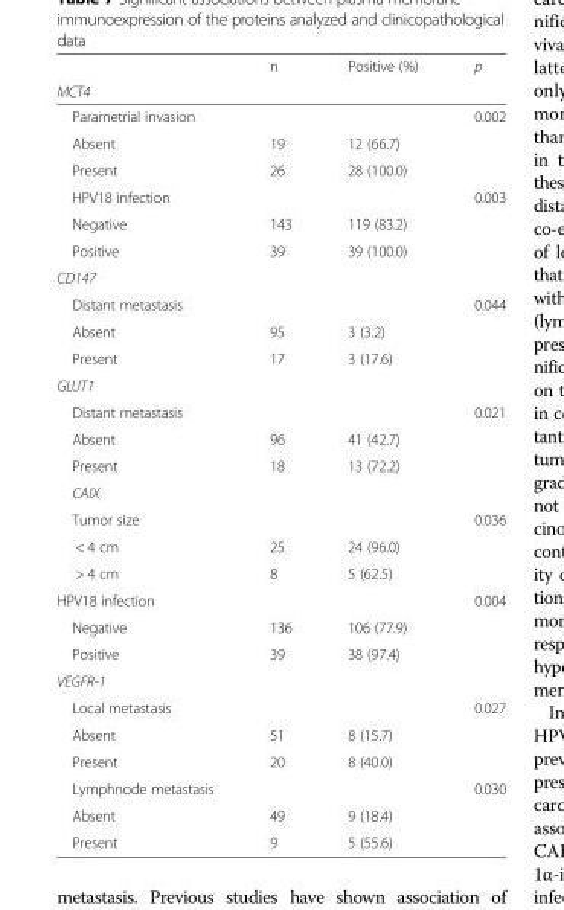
<table><thead><tr><td rowspan="2">MCT4</td><td rowspan="2">n</td><td rowspan="2">Positive (%)</td><td rowspan="2">p</td></tr><tr></tr></thead><tbody><tr><td>Parametrial invasion</td><td></td><td></td><td>0.002</td></tr><tr><td>Absent</td><td>19</td><td>12 (66.7)</td><td></td></tr><tr><td>Present</td><td>26</td><td>28 (100.0)</td><td></td></tr><tr><td>HPV18 infection</td><td></td><td></td><td>0.003</td></tr><tr><td>Negative</td><td>143</td><td>119 (83.2)</td><td></td></tr><tr><td>Positive</td><td>39</td><td>39 (100.0)</td><td></td></tr><tr><td colspan="4">CD147</td></tr><tr><td>Distant metastasis</td><td></td><td></td><td>0.044</td></tr><tr><td>Absent</td><td>95</td><td>3 (3.2)</td><td></td></tr><tr><td>Present</td><td>17</td><td>3 (17.6)</td><td></td></tr><tr><td colspan="4">GLUT1</td></tr><tr><td>Distant metastasis</td><td></td><td></td><td>0.021</td></tr><tr><td>Absent</td><td>96</td><td>41 (42.7)</td><td></td></tr><tr><td>Present</td><td>18</td><td>13 (72.2)</td><td></td></tr><tr><td colspan="4">CAIX</td></tr><tr><td>Tumor size</td><td></td><td></td><td>0.036</td></tr><tr><td>&lt; 4 cm</td><td>25</td><td>24 (96.0)</td><td></td></tr><tr><td>&gt; 4 cm</td><td>8</td><td>5 (62.5)</td><td></td></tr><tr><td>HPV18 infection</td><td></td><td></td><td>0.004</td></tr><tr><td>Negative</td><td>136</td><td>106 (77.9)</td><td></td></tr><tr><td>Positive</td><td>39</td><td>38 (97.4)</td><td></td></tr><tr><td colspan="4">VEGFR-1</td></tr><tr><td>Local metastasis</td><td></td><td></td><td>0.027</td></tr><tr><td>Absent</td><td>51</td><td>8 (15.7)</td><td></td></tr><tr><td>Present</td><td>20</td><td>8 (40.0)</td><td></td></tr><tr><td>Lymphnode metastasis</td><td></td><td></td><td>0.030</td></tr><tr><td>Absent</td><td>49</td><td>9 (18.4)</td><td></td></tr><tr><td>Present</td><td>9</td><td>5 (55.6)</td><td></td></tr></tbody></table>